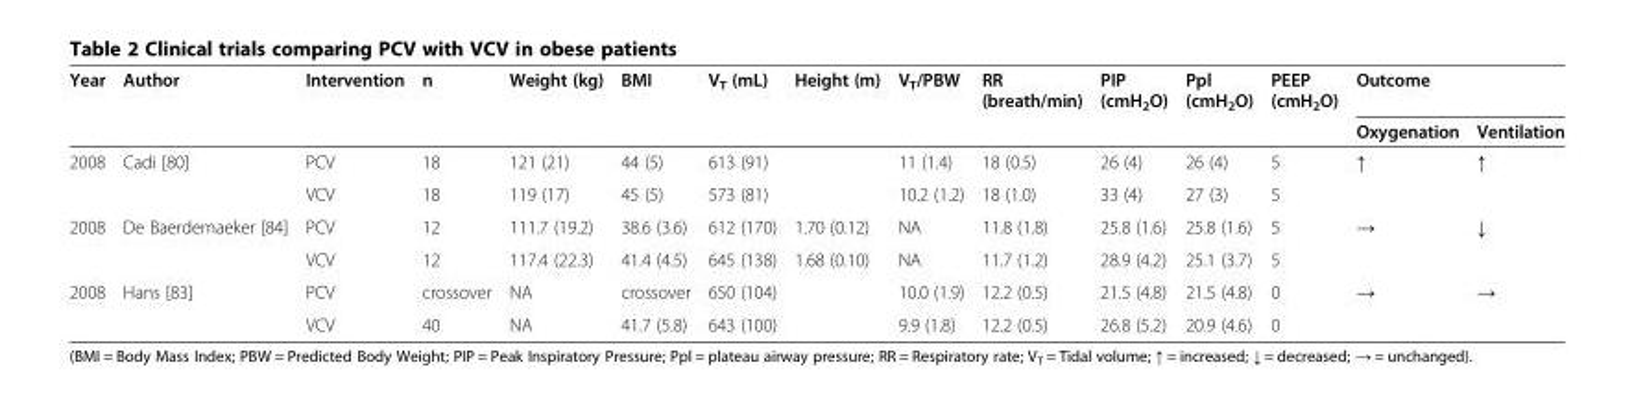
<table><thead><tr><td rowspan="2">Year</td><td rowspan="2">Author</td><td rowspan="2">Intervention</td><td rowspan="2">n</td><td rowspan="2">Weight (kg)</td><td rowspan="2">BMI</td><td rowspan="2">V<sub>T</sub> (mL)</td><td rowspan="2">Height (m)</td><td rowspan="2">V<sub>T</sub>/PBW</td><td rowspan="2">RR (breath/min)</td><td rowspan="2">PIP (cmH<sub>2</sub>O)</td><td rowspan="2">Ppl (cmH<sub>2</sub>O)</td><td rowspan="2">PEEP (cmH<sub>2</sub>O)</td><td colspan="2">Outcome</td></tr><tr><td>Oxygenation</td><td>Ventilation</td></tr></thead><tbody><tr><td rowspan="2">2008</td><td>Cadi [80]</td><td>PCV</td><td>18</td><td>121 (21)</td><td>44 (5)</td><td>613 (91)</td><td></td><td>11 (1.4)</td><td>18 (0.5)</td><td>26 (4)</td><td>26 (4)</td><td>5</td><td>↑</td><td>↑</td></tr><tr><td></td><td>VCV</td><td>18</td><td>119 (17)</td><td>45 (5)</td><td>573 (81)</td><td></td><td>10.2 (1.2)</td><td>18 (1.0)</td><td>33 (4)</td><td>27 (3)</td><td>5</td><td></td><td></td></tr><tr><td rowspan="2">2008</td><td>De Baerdemaeker [84]</td><td>PCV</td><td>12</td><td>111.7 (19.2)</td><td>38.6 (3.6)</td><td>612 (170)</td><td>1.70 (0.12)</td><td>NA</td><td>11.8 (1.8)</td><td>25.8 (1.6)</td><td>25.8 (1.6)</td><td>5</td><td>→</td><td>↓</td></tr><tr><td></td><td>VCV</td><td>12</td><td>117.4 (22.3)</td><td>41.4 (4.5)</td><td>645 (138)</td><td>1.68 (0.10)</td><td>NA</td><td>11.7 (1.2)</td><td>28.9 (4.2)</td><td>25.1 (3.7)</td><td>5</td><td></td><td></td></tr><tr><td rowspan="2">2008</td><td>Hans [83]</td><td>PCV</td><td>crossover</td><td>NA</td><td>crossover</td><td>650 (104)</td><td></td><td>10.0 (1.9)</td><td>12.2 (0.5)</td><td>21.5 (4.8)</td><td>21.5 (4.8)</td><td>0</td><td>→</td><td>→</td></tr><tr><td></td><td>VCV</td><td>40</td><td>NA</td><td>41.7 (5.8)</td><td>643 (100)</td><td></td><td>9.9 (1.8)</td><td>12.2 (0.5)</td><td>26.8 (5.2)</td><td>20.9 (4.6)</td><td>0</td><td></td><td></td></tr></tbody></table>